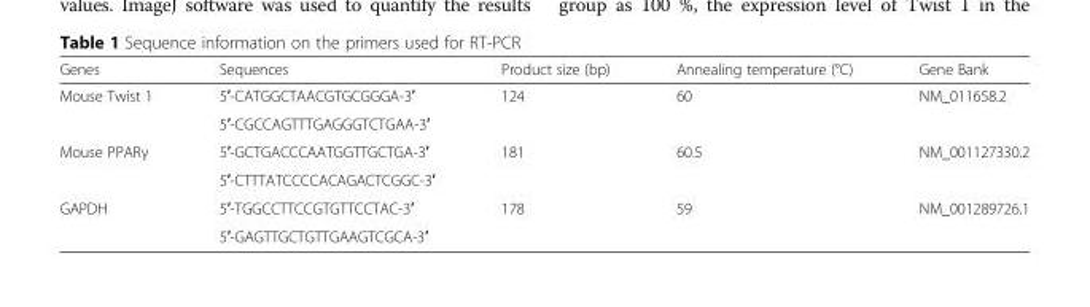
<table><thead><tr><td>Genes</td><td>Sequences</td><td>Product size (bp)</td><td>Annealing temperature (°C)</td><td>Gene Bank</td></tr></thead><tbody><tr><td rowspan="2">Mouse Twist 1</td><td>5′-CATGGCTAACGTGCGGGA-3′</td><td rowspan="2">124</td><td rowspan="2">60</td><td rowspan="2">NM_011658.2</td></tr><tr><td>5′-CGCCAGTTTGAGGGTCTGAA-3′</td></tr><tr><td rowspan="2">Mouse PPARγ</td><td>5′-GCTGACCCAATGGTTGCTGA-3′</td><td rowspan="2">181</td><td rowspan="2">60.5</td><td rowspan="2">NM_001127330.2</td></tr><tr><td>5′-CTTTATCCCCACAGACTCGGC-3′</td></tr><tr><td rowspan="2">GAPDH</td><td>5′-TGGCCTTCCGTGTTCCTAC-3′</td><td rowspan="2">178</td><td rowspan="2">59</td><td rowspan="2">NM_001289726.1</td></tr><tr><td>5′-GAGTTGCTGTTGAAGTCGCA-3′</td></tr></tbody></table>